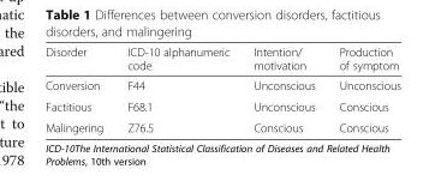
<table><thead><tr><td>Disorder</td><td>ICD-10 alphanumeric code</td><td>Intention/ motivation</td><td>Production of symptom</td></tr></thead><tbody><tr><td>Conversion</td><td>F44</td><td>Unconscious</td><td>Unconscious</td></tr><tr><td>Factitious</td><td>F68.1</td><td>Unconscious</td><td>Conscious</td></tr><tr><td>Malingering</td><td>Z76.5</td><td>Conscious</td><td>Conscious</td></tr></tbody></table>